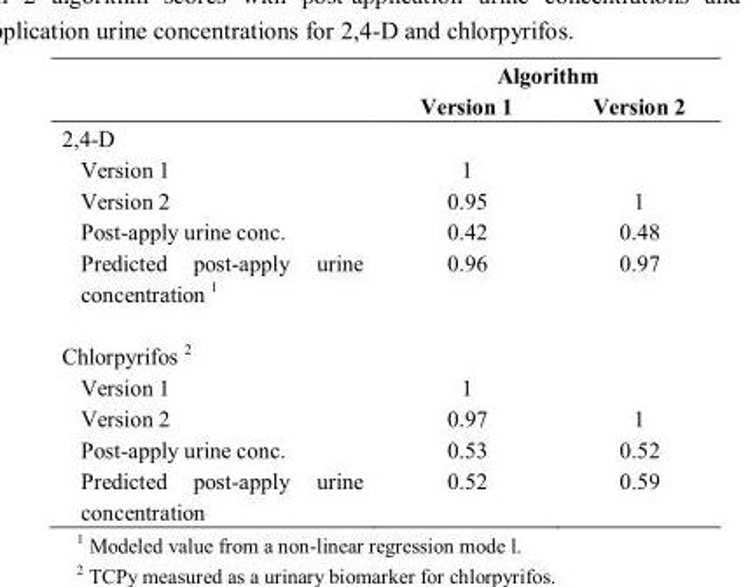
<table><thead><tr><td rowspan="2"></td><td colspan="2">Algorithm</td></tr><tr><td>Version 1</td><td>Version 2</td></tr></thead><tbody><tr><td colspan="3">2,4-D</td></tr><tr><td>Version 1</td><td>1</td><td></td></tr><tr><td>Version 2</td><td>0.95</td><td>1</td></tr><tr><td>Post-apply urine conc.</td><td>0.42</td><td>0.48</td></tr><tr><td>Predicted post-apply urine concentration <sup>1</sup></td><td>0.96</td><td>0.97</td></tr><tr><td colspan="3">Chlorpyrifos <sup>2</sup></td></tr><tr><td>Version 1</td><td>1</td><td></td></tr><tr><td>Version 2</td><td>0.97</td><td>1</td></tr><tr><td>Post-apply urine conc.</td><td>0.53</td><td>0.52</td></tr><tr><td>Predicted post-apply urine concentration</td><td>0.52</td><td>0.59</td></tr></tbody></table>